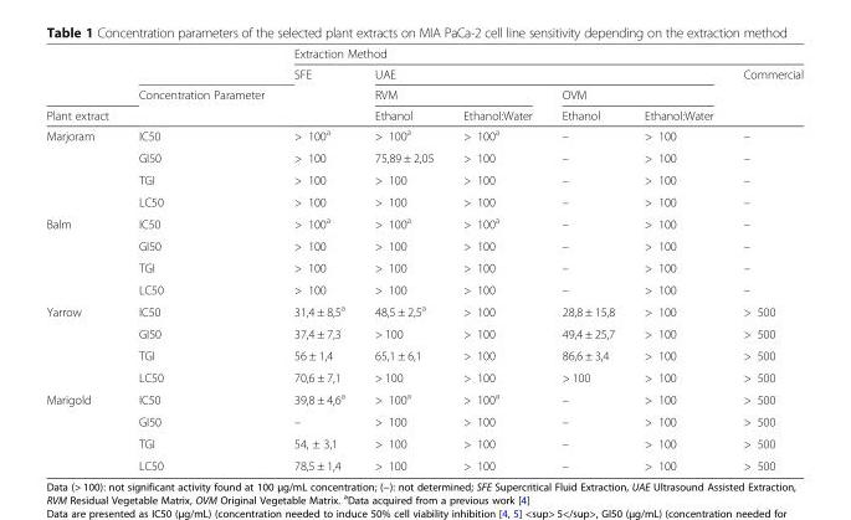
<table><thead><tr><td rowspan="4">Plant extract</td><td rowspan="4">Concentration Parameter</td><td colspan="6">Extraction Method</td></tr><tr><td rowspan="3">SFE</td><td colspan="4">UAE</td><td rowspan="3">Commercial</td></tr><tr><td colspan="2">RVM</td><td colspan="2">OVM</td></tr><tr><td>Ethanol</td><td>Ethanol:Water</td><td>Ethanol</td><td>Ethanol:Water</td></tr></thead><tbody><tr><td rowspan="4">Marjoram</td><td>IC50</td><td>&gt; 100<sup>a</sup></td><td>&gt; 100<sup>a</sup></td><td>&gt; 100<sup>a</sup></td><td>–</td><td>&gt; 100</td><td>–</td></tr><tr><td>GI50</td><td>&gt; 100</td><td>75,89 ± 2,05</td><td>&gt; 100</td><td>–</td><td>&gt; 100</td><td>–</td></tr><tr><td>TGI</td><td>&gt; 100</td><td>&gt; 100</td><td>&gt; 100</td><td>–</td><td>&gt; 100</td><td>–</td></tr><tr><td>LC50</td><td>&gt; 100</td><td>&gt; 100</td><td>&gt; 100</td><td>–</td><td>&gt; 100</td><td>–</td></tr><tr><td rowspan="4">Balm</td><td>IC50</td><td>&gt; 100<sup>a</sup></td><td>&gt; 100<sup>a</sup></td><td>&gt; 100<sup>a</sup></td><td>–</td><td>&gt; 100</td><td>–</td></tr><tr><td>GI50</td><td>&gt; 100</td><td>&gt; 100</td><td>&gt; 100</td><td>–</td><td>&gt; 100</td><td>–</td></tr><tr><td>TGI</td><td>&gt; 100</td><td>&gt; 100</td><td>&gt; 100</td><td>–</td><td>&gt; 100</td><td>–</td></tr><tr><td>LC50</td><td>&gt; 100</td><td>&gt; 100</td><td>&gt; 100</td><td>–</td><td>&gt; 100</td><td>–</td></tr><tr><td rowspan="4">Yarrow</td><td>IC50</td><td>31,4 ± 8,5<sup>a</sup></td><td>48,5 ± 2,5<sup>a</sup></td><td>&gt; 100</td><td>28,8 ± 15,8</td><td>&gt; 100</td><td>&gt; 500</td></tr><tr><td>GI50</td><td>37,4 ± 7,3</td><td>&gt; 100</td><td>&gt; 100</td><td>49,4 ± 25,7</td><td>&gt; 100</td><td>&gt; 500</td></tr><tr><td>TGI</td><td>56 ± 1,4</td><td>65,1 ± 6,1</td><td>&gt; 100</td><td>86,6 ± 3,4</td><td>&gt; 100</td><td>&gt; 500</td></tr><tr><td>LC50</td><td>70,6 ± 7,1</td><td>&gt; 100</td><td>&gt; 100</td><td>&gt; 100</td><td>&gt; 100</td><td>&gt; 500</td></tr><tr><td rowspan="4">Marigold</td><td>IC50</td><td>39,8 ± 4,6<sup>a</sup></td><td>&gt; 100<sup>a</sup></td><td>&gt; 100<sup>a</sup></td><td>–</td><td>&gt; 100</td><td>&gt; 500</td></tr><tr><td>GI50</td><td>–</td><td>&gt; 100</td><td>&gt; 100</td><td>–</td><td>&gt; 100</td><td>&gt; 500</td></tr><tr><td>TGI</td><td>54, ± 3,1</td><td>&gt; 100</td><td>&gt; 100</td><td>–</td><td>&gt; 100</td><td>&gt; 500</td></tr><tr><td>LC50</td><td>78,5 ± 1,4</td><td>&gt; 100</td><td>&gt; 100</td><td>–</td><td>&gt; 100</td><td>&gt; 500</td></tr></tbody></table>